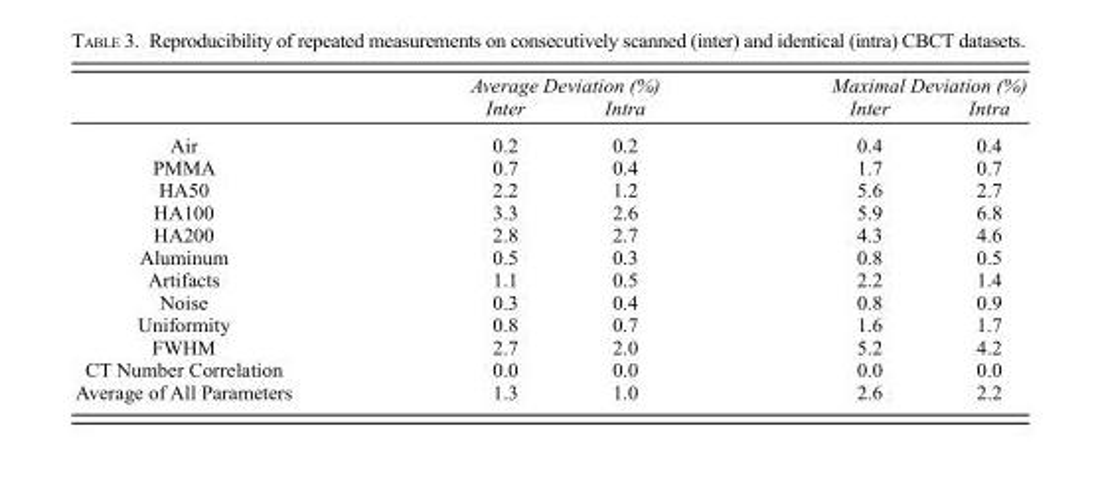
<table><thead><tr><td rowspan="2"></td><td colspan="2">Average Deviation (%)</td><td colspan="2">Maximal Deviation (%)</td></tr><tr><td>Inter</td><td>Intra</td><td>Inter</td><td>Intra</td></tr></thead><tbody><tr><td>Air</td><td>0.2</td><td>0.2</td><td>0.4</td><td>0.4</td></tr><tr><td>PMMA</td><td>0.7</td><td>0.4</td><td>1.7</td><td>0.7</td></tr><tr><td>HA50</td><td>2.2</td><td>1.2</td><td>5.6</td><td>2.7</td></tr><tr><td>HA100</td><td>3.3</td><td>2.6</td><td>5.9</td><td>6.8</td></tr><tr><td>HA200</td><td>2.8</td><td>2.7</td><td>4.3</td><td>4.6</td></tr><tr><td>Aluminum</td><td>0.5</td><td>0.3</td><td>0.8</td><td>0.5</td></tr><tr><td>Artifacts</td><td>1.1</td><td>0.5</td><td>2.2</td><td>1.4</td></tr><tr><td>Noise</td><td>0.3</td><td>0.4</td><td>0.8</td><td>0.9</td></tr><tr><td>Uniformity</td><td>0.8</td><td>0.7</td><td>1.6</td><td>1.7</td></tr><tr><td>FWHM</td><td>2.7</td><td>2.0</td><td>5.2</td><td>4.2</td></tr><tr><td>CT Number Correlation</td><td>0.0</td><td>0.0</td><td>0.0</td><td>0.0</td></tr><tr><td>Average of All Parameters</td><td>1.3</td><td>1.0</td><td>2.6</td><td>2.2</td></tr></tbody></table>